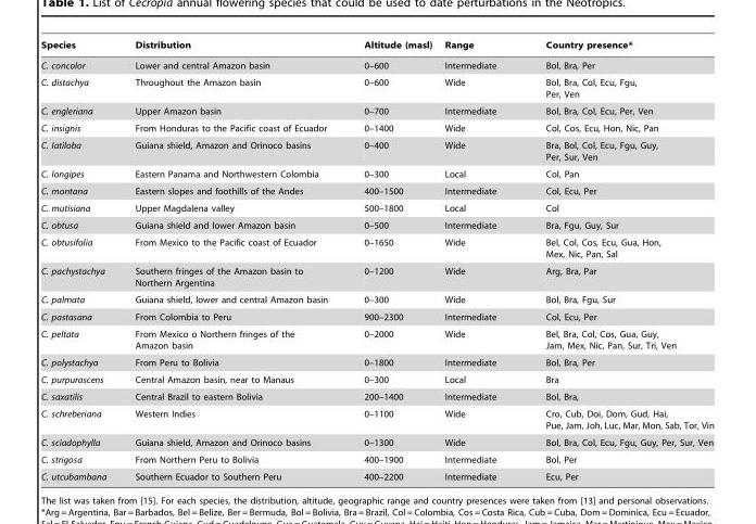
<table><thead><tr><td>Species</td><td>Distribution</td><td>Altitude (masl)</td><td>Range</td><td>Country presence*</td></tr></thead><tbody><tr><td>C. concolor</td><td>Lower and central Amazon basin</td><td>0–600</td><td>Intermediate</td><td>Bol, Bra, Per</td></tr><tr><td>C. distachya</td><td>Throughout the Amazon basin</td><td>0–600</td><td>Wide</td><td>Bol, Bra, Col, Ecu, Fgu, Per, Ven</td></tr><tr><td>C. engleriana</td><td>Upper Amazon basin</td><td>0–700</td><td>Intermediate</td><td>Bol, Bra, Col, Ecu, Per, Ven</td></tr><tr><td>C. insignis</td><td>From Honduras to the Pacific coast of Ecuador</td><td>0–1400</td><td>Wide</td><td>Col, Cos, Ecu, Hon, Nic, Pan</td></tr><tr><td>C. latiloba</td><td>Guiana shield, Amazon and Orinoco basins</td><td>0–400</td><td>Wide</td><td>Bra, Bol, Col, Ecu, Fgu, Guy, Per, Sur, Ven</td></tr><tr><td>C. longipes</td><td>Eastern Panama and Northwestern Colombia</td><td>0–300</td><td>Local</td><td>Col, Pan</td></tr><tr><td>C. montana</td><td>Eastern slopes and foothills of the Andes</td><td>400–1500</td><td>Intermediate</td><td>Col, Ecu, Per</td></tr><tr><td>C. mutisiana</td><td>Upper Magdalena valley</td><td>500–1800</td><td>Local</td><td>Col</td></tr><tr><td>C. obtusa</td><td>Guiana shield and lower Amazon basin</td><td>0–500</td><td>Intermediate</td><td>Bra, Fgu, Guy, Sur</td></tr><tr><td>C. obtusifolia</td><td>From Mexico to the Pacific coast of Ecuador</td><td>0–1650</td><td>Wide</td><td>Bel, Col, Cos, Ecu, Gua, Hon, Mex, Nic, Pan, Sal</td></tr><tr><td>C. pachystachya</td><td>Southern fringes of the Amazon basin to Northern Argentina</td><td>0–1200</td><td>Wide</td><td>Arg, Bra, Par</td></tr><tr><td>C. palmata</td><td>Guiana shield, lower and central Amazon basin</td><td>0–300</td><td>Wide</td><td>Bol, Bra, Fgu, Sur</td></tr><tr><td>C. pastasana</td><td>From Colombia to Peru</td><td>900–2300</td><td>Intermediate</td><td>Col, Ecu, Per</td></tr><tr><td>C. peltata</td><td>From Mexico o Northern fringes of the Amazon basin</td><td>0–2000</td><td>Wide</td><td>Bel, Bra, Col, Cos, Gua, Guy, Jam, Mex, Nic, Pan, Sur, Tri, Ven</td></tr><tr><td>C. polystachya</td><td>From Peru to Bolivia</td><td>0–1800</td><td>Intermediate</td><td>Bol, Bra, Per</td></tr><tr><td>C. purpurascens</td><td>Central Amazon basin, near to Manaus</td><td>0–300</td><td>Local</td><td>Bra</td></tr><tr><td>C. saxatilis</td><td>Central Brazil to eastern Bolivia</td><td>200–1400</td><td>Intermediate</td><td>Bol, Bra,</td></tr><tr><td>C. schreberiana</td><td>Western Indies</td><td>0–1100</td><td>Wide</td><td>Cro, Cub, Doi, Dom, Gud, Hai, Pue, Jam, Joh, Luc, Mar, Mon, Sab, Tor, Vin</td></tr><tr><td>C. sciadophylla</td><td>Guiana shield, Amazon and Orinoco basins</td><td>0–1300</td><td>Wide</td><td>Bol, Bra, Col, Ecu, Fgu, Guy, Per, Sur, Ven</td></tr><tr><td>C. strigosa</td><td>From Northern Peru to Bolivia</td><td>400–1900</td><td>Intermediate</td><td>Bol, Per</td></tr><tr><td>C. utcubambana</td><td>Southern Ecuador to Southern Peru</td><td>400–2200</td><td>Intermediate</td><td>Ecu, Per</td></tr></tbody></table>